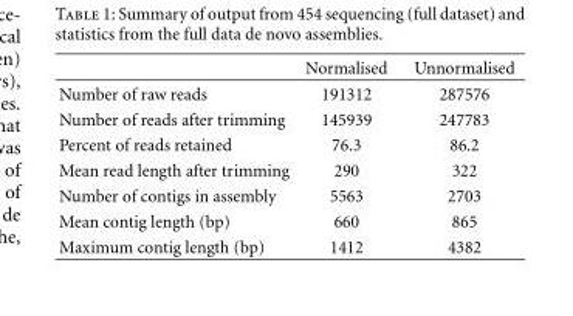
<table><thead><tr><td></td><td>Normalised</td><td>Unnormalised</td></tr></thead><tbody><tr><td>Number of raw reads</td><td>191312</td><td>287576</td></tr><tr><td>Number of reads after trimming</td><td>145939</td><td>247783</td></tr><tr><td>Percent of reads retained</td><td>76.3</td><td>86.2</td></tr><tr><td>Mean read length after trimming</td><td>290</td><td>322</td></tr><tr><td>Number of contigs in assembly</td><td>5563</td><td>2703</td></tr><tr><td>Mean contig length (bp)</td><td>660</td><td>865</td></tr><tr><td>Maximum contig length (bp)</td><td>1412</td><td>4382</td></tr></tbody></table>